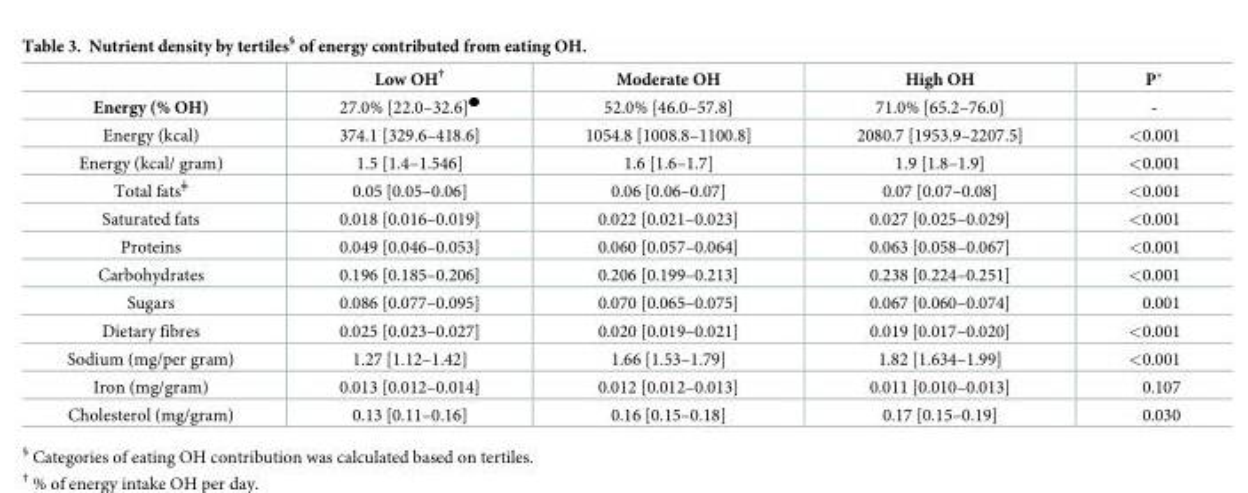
<table><thead><tr><td></td><td>Low OH<sup>†</sup></td><td>Moderate OH</td><td>High OH</td><td>P*</td></tr></thead><tbody><tr><td>Energy (% OH)</td><td>27.0% [22.0–32.6]<sup>●</sup></td><td>52.0% [46.0–57.8]</td><td>71.0% [65.2–76.0]</td><td>-</td></tr><tr><td>Energy (kcal)</td><td>374.1 [329.6–418.6]</td><td>1054.8 [1008.8–1100.8]</td><td>2080.7 [1953.9–2207.5]</td><td>&lt;0.001</td></tr><tr><td>Energy (kcal/ gram)</td><td>1.5 [1.4–1.546]</td><td>1.6 [1.6–1.7]</td><td>1.9 [1.8–1.9]</td><td>&lt;0.001</td></tr><tr><td>Total fats<sup>╪</sup></td><td>0.05 [0.05–0.06]</td><td>0.06 [0.06–0.07]</td><td>0.07 [0.07–0.08]</td><td>&lt;0.001</td></tr><tr><td>Saturated fats</td><td>0.018 [0.016–0.019]</td><td>0.022 [0.021–0.023]</td><td>0.027 [0.025–0.029]</td><td>&lt;0.001</td></tr><tr><td>Proteins</td><td>0.049 [0.046–0.053]</td><td>0.060 [0.057–0.064]</td><td>0.063 [0.058–0.067]</td><td>&lt;0.001</td></tr><tr><td>Carbohydrates</td><td>0.196 [0.185–0.206]</td><td>0.206 [0.199–0.213]</td><td>0.238 [0.224–0.251]</td><td>&lt;0.001</td></tr><tr><td>Sugars</td><td>0.086 [0.077–0.095]</td><td>0.070 [0.065–0.075]</td><td>0.067 [0.060–0.074]</td><td>0.001</td></tr><tr><td>Dietary fibres</td><td>0.025 [0.023–0.027]</td><td>0.020 [0.019–0.021]</td><td>0.019 [0.017–0.020]</td><td>&lt;0.001</td></tr><tr><td>Sodium (mg/per gram)</td><td>1.27 [1.12–1.42]</td><td>1.66 [1.53–1.79]</td><td>1.82 [1.634–1.99]</td><td>&lt;0.001</td></tr><tr><td>Iron (mg/gram)</td><td>0.013 [0.012–0.014]</td><td>0.012 [0.012–0.013]</td><td>0.011 [0.010–0.013]</td><td>0.107</td></tr><tr><td>Cholesterol (mg/gram)</td><td>0.13 [0.11–0.16]</td><td>0.16 [0.15–0.18]</td><td>0.17 [0.15–0.19]</td><td>0.030</td></tr></tbody></table>